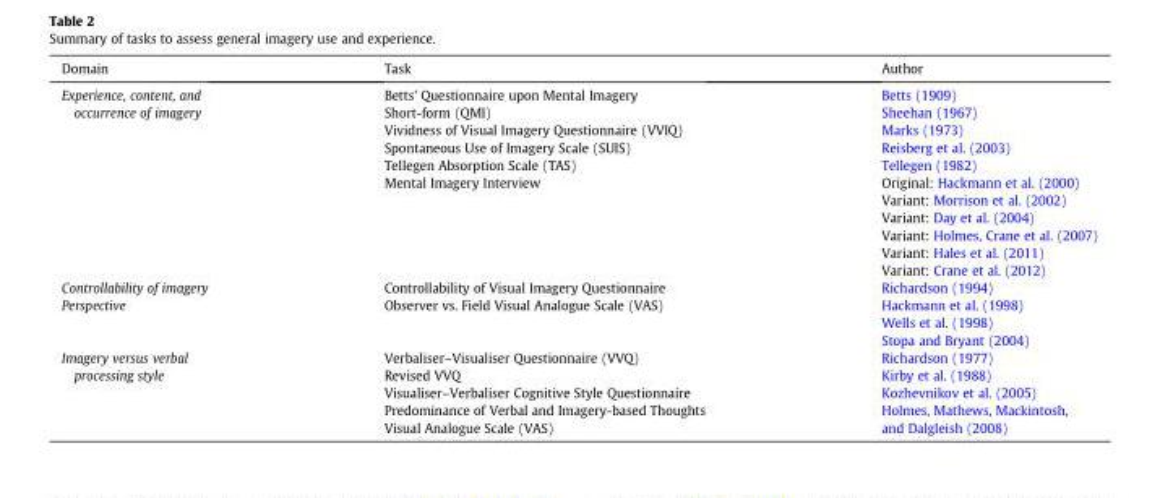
<table><thead><tr><td>Domain</td><td>Task</td><td>Author</td></tr></thead><tbody><tr><td rowspan="5">Experience, content, and occurrence of imagery</td><td>Betts&#x27; Questionnaire upon Mental Imagery Short-form (QMI)</td><td>Betts (1909) Sheehan (1967)</td></tr><tr><td>Vividness of Visual Imagery Questionnaire (VVIQ)</td><td>Marks (1973)</td></tr><tr><td>Spontaneous Use of Imagery Scale (SUIS)</td><td>Reisberg et al. (2003)</td></tr><tr><td>Tellegen Absorption Scale (TAS)</td><td>Tellegen (1982)</td></tr><tr><td>Mental Imagery Interview</td><td>Original: Hackmann et al. (2000) Variant: Morrison et al. (2002) Variant: Day et al. (2004) Variant: Holmes, Crane et al. (2007) Variant: Hales et al. (2011) Variant: Crane et al. (2012)</td></tr><tr><td>Controllability of imagery</td><td>Controllability of Visual Imagery Questionnaire</td><td>Richardson (1994)</td></tr><tr><td>Perspective</td><td>Observer vs. Field Visual Analogue Scale (VAS)</td><td>Hackmann et al. (1998) Wells et al. (1998) Stopa and Bryant (2004)</td></tr><tr><td rowspan="3">Imagery versus verbal processing style</td><td>Verbaliser–Visualiser Questionnaire (VVQ) Revised VVQ</td><td>Richardson (1977) Kirby et al. (1988)</td></tr><tr><td>Visualiser–Verbaliser Cognitive Style Questionnaire</td><td>Kozhevnikov et al. (2005)</td></tr><tr><td>Predominance of Verbal and Imagery-based Thoughts Visual Analogue Scale (VAS)</td><td>Holmes, Mathews, Mackintosh, and Dalgleish (2008)</td></tr></tbody></table>